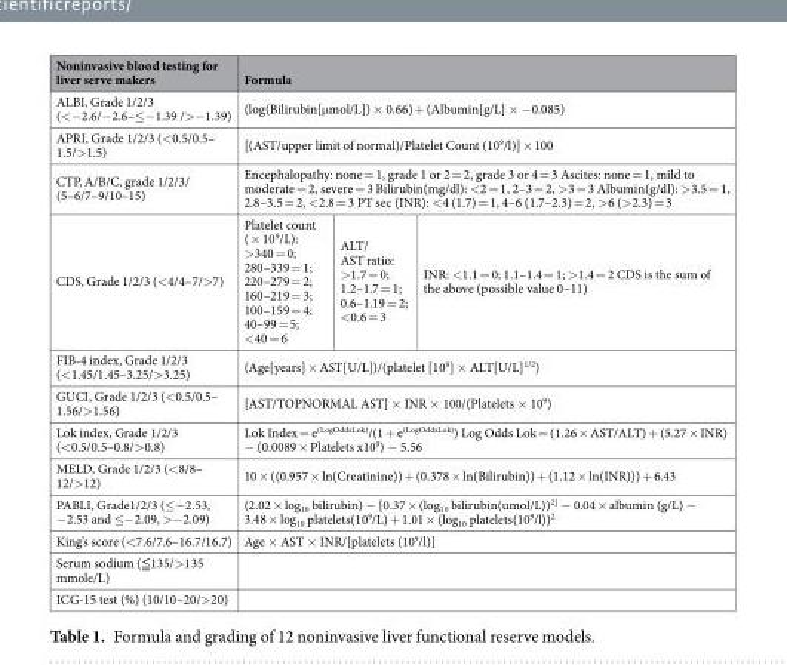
<table><thead><tr><td>Noninvasive blood testing for liver serve makers</td><td colspan="3">Formula</td></tr></thead><tbody><tr><td>ALBI, Grade 1/2/3 (&lt;−2.6/−2.6–≤−1.39 /&gt;−1.39)</td><td colspan="3">(log(Bilirubin[μmol/L]) × 0.66) + (Albumin[g/L] × −0.085)</td></tr><tr><td>APRI, Grade 1/2/3 (&lt;0.5/0.5– 1.5/&gt;1.5)</td><td colspan="3">[(AST/upper limit of normal)/Platelet Count (10<sup>9</sup>/l)] × 100</td></tr><tr><td>CTP, A/B/C, grade 1/2/3/ (5–6/7–9/10–15)</td><td colspan="3">Encephalopathy: none = 1, grade 1 or 2 = 2, grade 3 or 4 = 3 Ascites: none = 1, mild to moderate = 2, severe = 3 Bilirubin(mg/dl): &lt;2 = 1, 2–3 = 2, &gt;3 = 3 Albumin(g/dl): &gt;3.5 = 1, 2.8–3.5 = 2, &lt;2.8 = 3 PT sec (INR): &lt;4 (1.7) = 1, 4–6 (1.7–2.3) = 2, &gt;6 (&gt;2.3) = 3</td></tr><tr><td>CDS, Grade 1/2/3 (&lt;4/4–7/&gt;7)</td><td>Platelet count ( × 10<sup>9</sup>/L): &gt;340 = 0; 280–339 = 1; 220–279 = 2; 160–219 = 3; 100–159 = 4; 40–99 = 5; &lt;40 = 6</td><td>ALT/ AST ratio: &gt;1.7 = 0; 1.2–1.7 = 1; 0.6–1.19 = 2; &lt;0.6 = 3</td><td>INR: &lt;1.1 = 0; 1.1–1.4 = 1; &gt;1.4 = 2 CDS is the sum of the above (possible value 0–11)</td></tr><tr><td>FIB-4 index, Grade 1/2/3 (&lt;1.45/1.45–3.25/&gt;3.25)</td><td colspan="3">(Age[years] × AST[U/L])/(platelet [10<sup>9</sup>] × ALT[U/L]<sup>1/2</sup>)</td></tr><tr><td>GUCI, Grade 1/2/3 (&lt;0.5/0.5– 1.56/&gt;1.56)</td><td colspan="3">[AST/TOPNORMAL AST] × INR × 100/(Platelets × 10<sup>9</sup>)</td></tr><tr><td>Lok index, Grade 1/2/3 (&lt;0.5/0.5–0.8/&gt;0.8)</td><td colspan="3">Lok Index = e<sup>(LogOddsLok)</sup>/(1 + e<sup>(LogOddsLok)</sup>) Log Odds Lok = (1.26 × AST/ALT) + (5.27 × INR) − (0.0089 × Platelets x10<sup>9</sup>) − 5.56</td></tr><tr><td>MELD, Grade 1/2/3 (&lt;8/8– 12/&gt;12)</td><td colspan="3">10 × ((0.957 × ln(Creatinine)) + (0.378 × ln(Bilirubin)) + (1.12 × ln(INR))) + 6.43</td></tr><tr><td>PABLI, Grade1/2/3 (≤−2.53, −2.53 and ≤−2.09, &gt;−2.09)</td><td colspan="3">(2.02 × log<sub>10</sub> bilirubin) − [0.37 × (log<sub>10</sub> bilirubin(umol/L))<sup>2]</sup> − 0.04 × albumin (g/L) − 3.48 × log<sub>10</sub> platelets(10<sup>9</sup>/L) + 1.01 × (log<sub>10</sub> platelets(10<sup>9</sup>/l))<sup>2</sup></td></tr><tr><td>King’s score (&lt;7.6/7.6–16.7/16.7)</td><td colspan="3">Age × AST × INR/[platelets (10<sup>9</sup>/l)]</td></tr><tr><td colspan="4">Serum sodium (≦135/&gt;135 mmole/L)</td></tr><tr><td>ICG-15 test (%) (10/10–20/&gt;20)</td><td colspan="3"></td></tr></tbody></table>